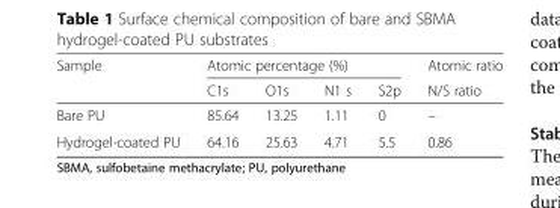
<table><thead><tr><td rowspan="2">Sample</td><td colspan="4">Atomic percentage (%)</td><td rowspan="2">Atomic ratio N/S ratio</td></tr><tr><td>C1s</td><td>O1s</td><td>N1 s</td><td>S2p</td></tr></thead><tbody><tr><td>Bare PU</td><td>85.64</td><td>13.25</td><td>1.11</td><td>0</td><td>–</td></tr><tr><td>Hydrogel-coated PU</td><td>64.16</td><td>25.63</td><td>4.71</td><td>5.5</td><td>0.86</td></tr></tbody></table>